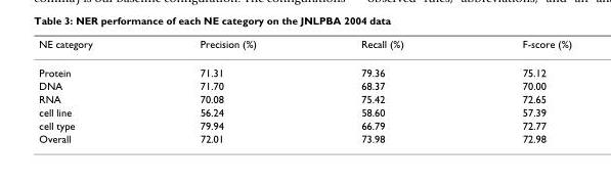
<table><thead><tr><td>NE category</td><td>Precision (%)</td><td>Recall (%)</td><td>F-score (%)</td></tr></thead><tbody><tr><td>Protein</td><td>71.31</td><td>79.36</td><td>75.12</td></tr><tr><td>DNA</td><td>71.70</td><td>68.37</td><td>70.00</td></tr><tr><td>RNA</td><td>70.08</td><td>75.42</td><td>72.65</td></tr><tr><td>cell line</td><td>56.24</td><td>58.60</td><td>57.39</td></tr><tr><td>cell type</td><td>79.94</td><td>66.79</td><td>72.77</td></tr><tr><td>Overall</td><td>72.01</td><td>73.98</td><td>72.98</td></tr></tbody></table>